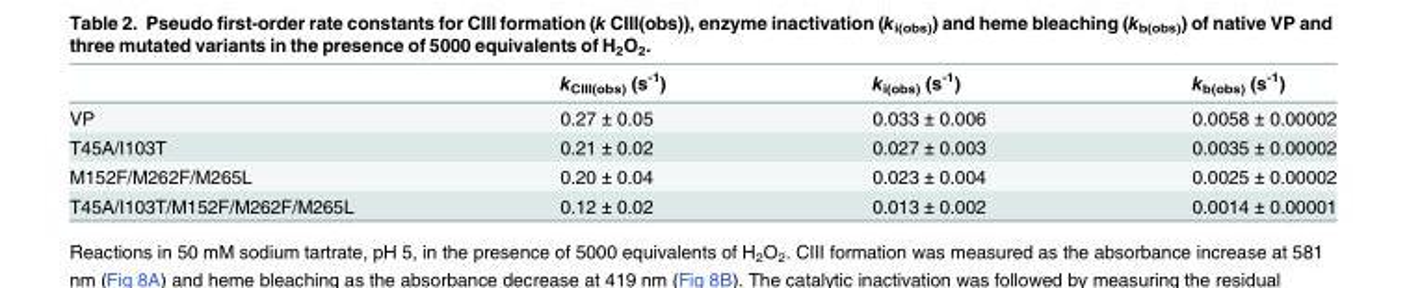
<table><thead><tr><td></td><td>k<sub>CIII(obs)</sub> (s<sup>-1</sup>)</td><td>k<sub>i(obs)</sub> (s<sup>-1</sup>)</td><td>k<sub>b(obs)</sub> (s<sup>-1</sup>)</td></tr></thead><tbody><tr><td>VP</td><td>0.27 ± 0.05</td><td>0.033 ± 0.006</td><td>0.0058 ± 0.00002</td></tr><tr><td>T45A/I103T</td><td>0.21 ± 0.02</td><td>0.027 ± 0.003</td><td>0.0035 ± 0.00002</td></tr><tr><td>M152F/M262F/M265L</td><td>0.20 ± 0.04</td><td>0.023 ± 0.004</td><td>0.0025 ± 0.00002</td></tr><tr><td>T45A/I103T/M152F/M262F/M265L</td><td>0.12 ± 0.02</td><td>0.013 ± 0.002</td><td>0.0014 ± 0.00001</td></tr></tbody></table>